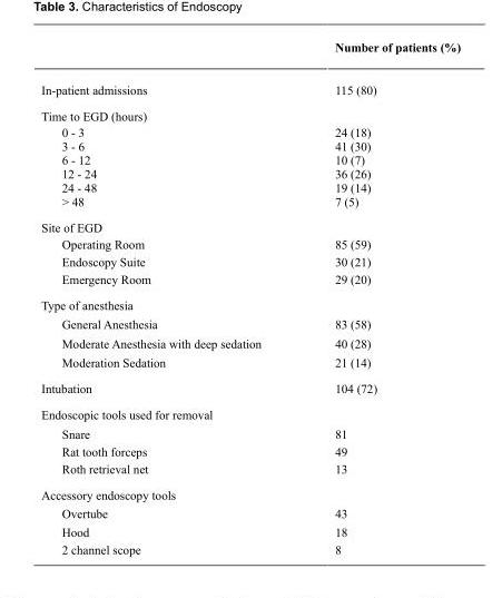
<table><thead><tr><td></td><td>Number of patients (%)</td></tr></thead><tbody><tr><td>In-patient admissions</td><td>115 (80)</td></tr><tr><td colspan="2">Time to EGD (hours)</td></tr><tr><td>0 - 3</td><td>24 (18)</td></tr><tr><td>3 - 6</td><td>41 (30)</td></tr><tr><td>6 - 12</td><td>10 (7)</td></tr><tr><td>12 - 24</td><td>36 (26)</td></tr><tr><td>24 - 48</td><td>19 (14)</td></tr><tr><td>&gt; 48</td><td>7 (5)</td></tr><tr><td colspan="2">Site of EGD</td></tr><tr><td>Operating Room</td><td>85 (59)</td></tr><tr><td>Endoscopy Suite</td><td>30 (21)</td></tr><tr><td>Emergency Room</td><td>29 (20)</td></tr><tr><td colspan="2">Type of anesthesia</td></tr><tr><td>General Anesthesia</td><td>83 (58)</td></tr><tr><td>Moderate Anesthesia with deep sedation</td><td>40 (28)</td></tr><tr><td>Moderation Sedation</td><td>21 (14)</td></tr><tr><td>Intubation</td><td>104 (72)</td></tr><tr><td colspan="2">Endoscopic tools used for removal</td></tr><tr><td>Snare</td><td>81</td></tr><tr><td>Rat tooth forceps</td><td>49</td></tr><tr><td>Roth retrieval net</td><td>13</td></tr><tr><td colspan="2">Accessory endoscopy tools</td></tr><tr><td>Overtube</td><td>43</td></tr><tr><td>Hood</td><td>18</td></tr><tr><td>2 channel scope</td><td>8</td></tr></tbody></table>